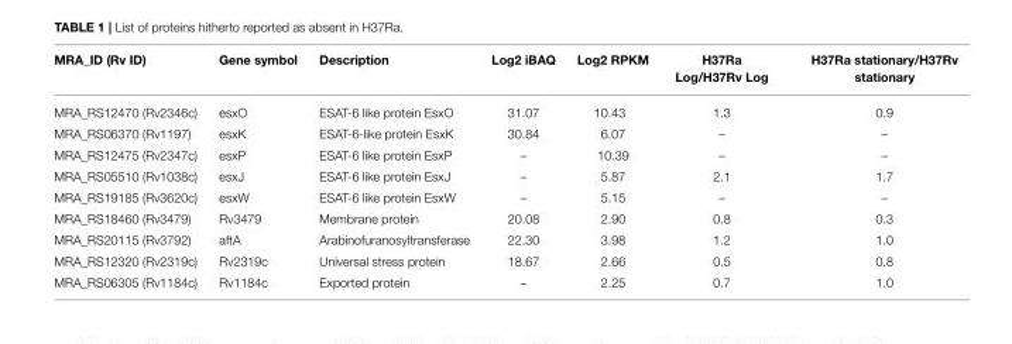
<table><thead><tr><td>MRA_ID (Rv ID)</td><td>Gene symbol</td><td>Description</td><td>Log2 iBAQ</td><td>Log2 RPKM</td><td>H37Ra Log/H37Rv Log</td><td>H37Ra stationary/H37Rv stationary</td></tr></thead><tbody><tr><td>MRA_RS12470 (Rv2346c)</td><td>esxO</td><td>ESAT-6 like protein EsxO</td><td>31.07</td><td>10.43</td><td>1.3</td><td>0.9</td></tr><tr><td>MRA_RS06370 (Rv1197)</td><td>esxK</td><td>ESAT-6-like protein EsxK</td><td>30.84</td><td>6.07</td><td>–</td><td>–</td></tr><tr><td>MRA_RS12475 (Rv2347c)</td><td>esxP</td><td>ESAT-6 like protein EsxP</td><td>–</td><td>10.39</td><td>–</td><td>–</td></tr><tr><td>MRA_RS05510 (Rv1038c)</td><td>esxJ</td><td>ESAT-6 like protein EsxJ</td><td>–</td><td>5.87</td><td>2.1</td><td>1.7</td></tr><tr><td>MRA_RS19185 (Rv3620c)</td><td>esxW</td><td>ESAT-6 like protein EsxW</td><td>–</td><td>5.15</td><td>–</td><td>–</td></tr><tr><td>MRA_RS18460 (Rv3479)</td><td>Rv3479</td><td>Membrane protein</td><td>20.08</td><td>2.90</td><td>0.8</td><td>0.3</td></tr><tr><td>MRA_RS20115 (Rv3792)</td><td>aftA</td><td>Arabinofuranosyltransferase</td><td>22.30</td><td>3.98</td><td>1.2</td><td>1.0</td></tr><tr><td>MRA_RS12320 (Rv2319c)</td><td>Rv2319c</td><td>Universal stress protein</td><td>18.67</td><td>2.66</td><td>0.5</td><td>0.8</td></tr><tr><td>MRA_RS06305 (Rv1184c)</td><td>Rv1184c</td><td>Exported protein</td><td>–</td><td>2.25</td><td>0.7</td><td>1.0</td></tr></tbody></table>